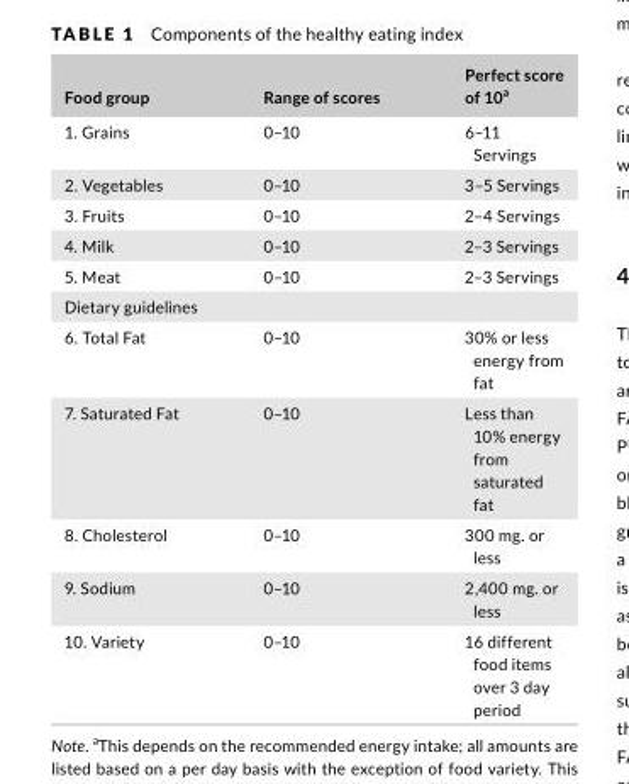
<table><thead><tr><td>Food group</td><td>Range of scores</td><td>Perfect score of 10<sup>a</sup></td></tr></thead><tbody><tr><td>1. Grains</td><td>0–10</td><td>6–11 Servings</td></tr><tr><td>2. Vegetables</td><td>0–10</td><td>3–5 Servings</td></tr><tr><td>3. Fruits</td><td>0–10</td><td>2–4 Servings</td></tr><tr><td>4. Milk</td><td>0–10</td><td>2–3 Servings</td></tr><tr><td>5. Meat</td><td>0–10</td><td>2–3 Servings</td></tr><tr><td colspan="3">Dietary guidelines</td></tr><tr><td>6. Total Fat</td><td>0–10</td><td>30% or less energy from fat</td></tr><tr><td>7. Saturated Fat</td><td>0–10</td><td>Less than 10% energy from saturated fat</td></tr><tr><td>8. Cholesterol</td><td>0–10</td><td>300 mg. or less</td></tr><tr><td>9. Sodium</td><td>0–10</td><td>2,400 mg. or less</td></tr><tr><td>10. Variety</td><td>0–10</td><td>16 different food items over 3 day period</td></tr></tbody></table>